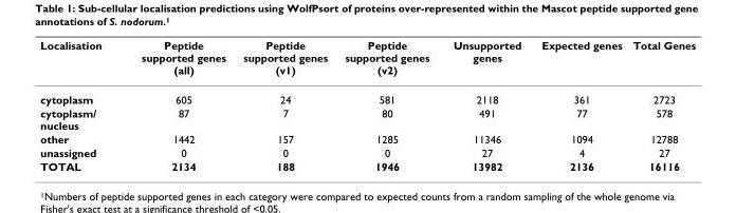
<table><thead><tr><td>Localisation</td><td>Peptide supported genes (all)</td><td>Peptide supported genes (v1)</td><td>Peptide supported genes (v2)</td><td>Unsupported genes</td><td>Expected genes</td><td>Total Genes</td></tr></thead><tbody><tr><td>cytoplasm</td><td>605</td><td>24</td><td>581</td><td>2118</td><td>361</td><td>2723</td></tr><tr><td>cytoplasm/ nucleus</td><td>87</td><td>7</td><td>80</td><td>491</td><td>77</td><td>578</td></tr><tr><td>other</td><td>1442</td><td>157</td><td>1285</td><td>11346</td><td>1094</td><td>12788</td></tr><tr><td>unassigned</td><td>0</td><td>0</td><td>0</td><td>27</td><td>4</td><td>27</td></tr><tr><td>TOTAL</td><td>2134</td><td>188</td><td>1946</td><td>13982</td><td>2136</td><td>16116</td></tr></tbody></table>